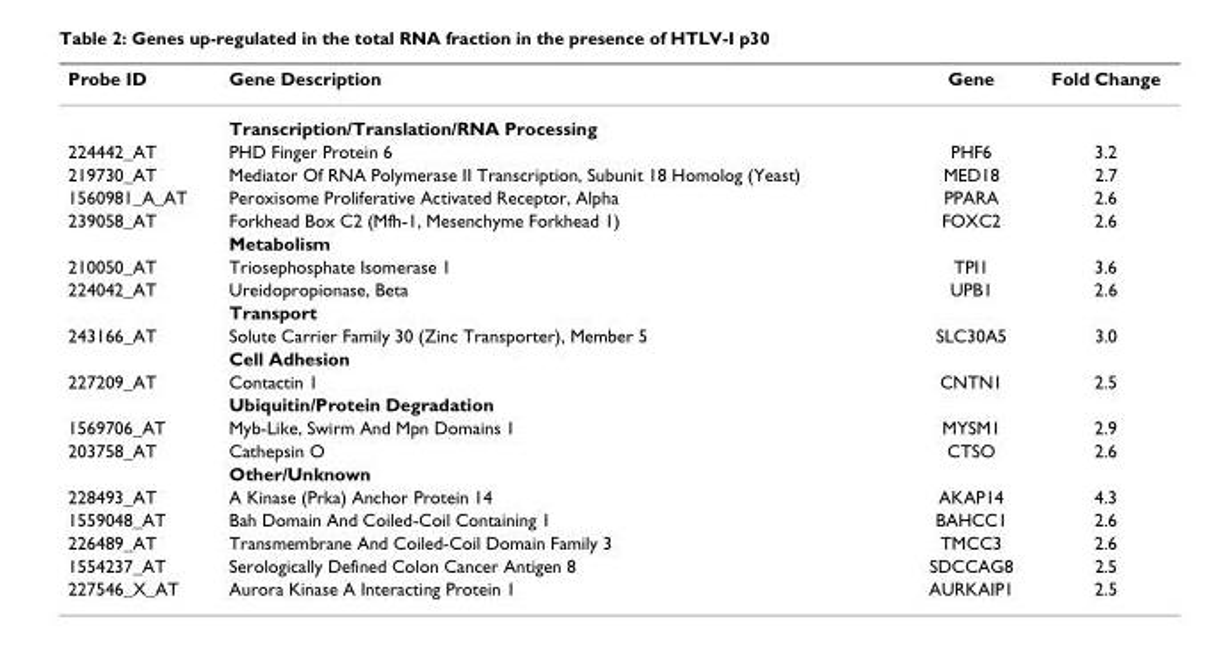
<table><thead><tr><td>Probe ID</td><td>Gene Description</td><td>Gene</td><td>Fold Change</td></tr></thead><tbody><tr><td></td><td>Transcription/Translation/RNA Processing</td><td></td><td></td></tr><tr><td>224442_AT</td><td>PHD Finger Protein 6</td><td>PHF6</td><td>3.2</td></tr><tr><td>219730_AT</td><td>Mediator Of RNA Polymerase II Transcription, Subunit 18 Homolog (Yeast)</td><td>MED18</td><td>2.7</td></tr><tr><td>1560981_A_AT</td><td>Peroxisome Proliferative Activated Receptor, Alpha</td><td>PPARA</td><td>2.6</td></tr><tr><td rowspan="2">239058_AT</td><td>Forkhead Box C2 (Mfh-1, Mesenchyme Forkhead 1)</td><td>FOXC2</td><td>2.6</td></tr><tr><td>Metabolism</td><td></td><td></td></tr><tr><td>210050_AT</td><td>Triosephosphate Isomerase 1</td><td>TPI1</td><td>3.6</td></tr><tr><td rowspan="2">224042_AT</td><td>Ureidopropionase, Beta</td><td>UPB1</td><td>2.6</td></tr><tr><td>Transport</td><td></td><td></td></tr><tr><td rowspan="2">243166_AT</td><td>Solute Carrier Family 30 (Zinc Transporter), Member 5</td><td>SLC30A5</td><td>3.0</td></tr><tr><td>Cell Adhesion</td><td></td><td></td></tr><tr><td rowspan="2">227209_AT</td><td>Contactin 1</td><td>CNTN1</td><td>2.5</td></tr><tr><td>Ubiquitin/Protein Degradation</td><td></td><td></td></tr><tr><td>1569706_AT</td><td>Myb-Like, Swirm And Mpn Domains 1</td><td>MYSM1</td><td>2.9</td></tr><tr><td rowspan="2">203758_AT</td><td>Cathepsin O</td><td>CTSO</td><td>2.6</td></tr><tr><td>Other/Unknown</td><td></td><td></td></tr><tr><td>228493_AT</td><td>A Kinase (Prka) Anchor Protein 14</td><td>AKAP14</td><td>4.3</td></tr><tr><td>1559048_AT</td><td>Bah Domain And Coiled-Coil Containing 1</td><td>BAHCC1</td><td>2.6</td></tr><tr><td>226489_AT</td><td>Transmembrane And Coiled-Coil Domain Family 3</td><td>TMCC3</td><td>2.6</td></tr><tr><td>1554237_AT</td><td>Serologically Defined Colon Cancer Antigen 8</td><td>SDCCAG8</td><td>2.5</td></tr><tr><td>227546_X_AT</td><td>Aurora Kinase A Interacting Protein 1</td><td>AURKAIP1</td><td>2.5</td></tr></tbody></table>